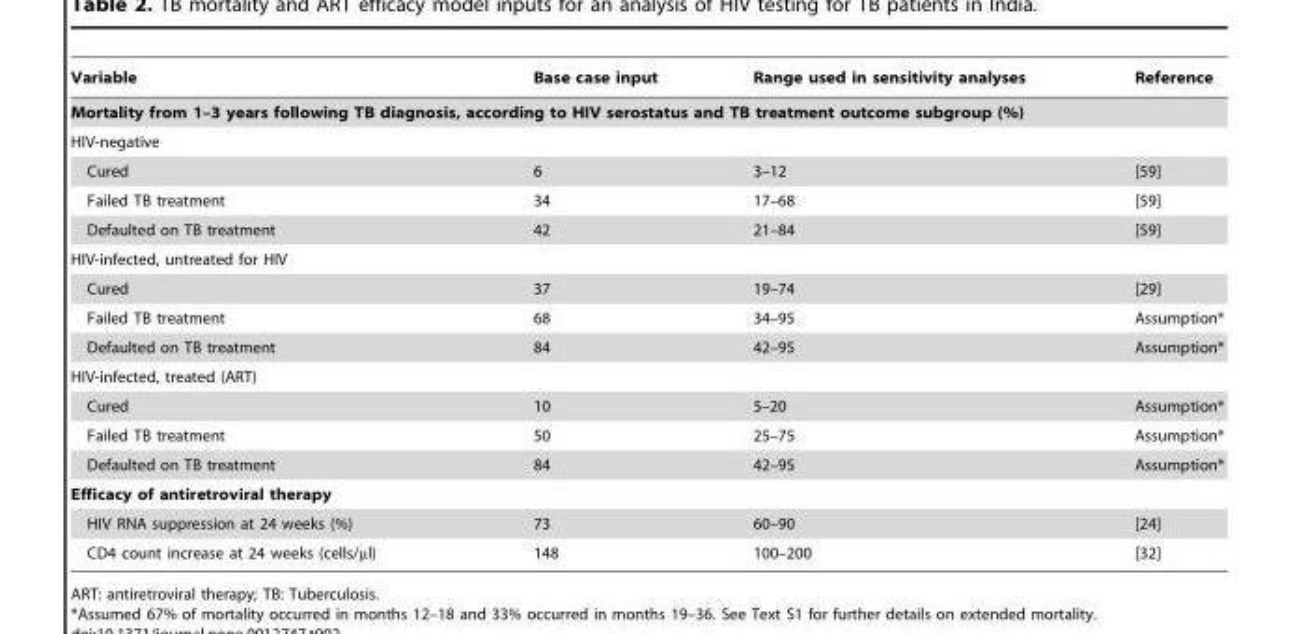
<table><thead><tr><td>Variable</td><td>Base case input</td><td>Range used in sensitivity analyses</td><td>Reference</td></tr></thead><tbody><tr><td colspan="4">Mortality from 1–3 years following TB diagnosis, according to HIV serostatus and TB treatment outcome subgroup (%)</td></tr><tr><td colspan="4">HIV-negative</td></tr><tr><td>Cured</td><td>6</td><td>3–12</td><td>[59]</td></tr><tr><td>Failed TB treatment</td><td>34</td><td>17–68</td><td>[59]</td></tr><tr><td>Defaulted on TB treatment</td><td>42</td><td>21–84</td><td>[59]</td></tr><tr><td colspan="4">HIV-infected, untreated for HIV</td></tr><tr><td>Cured</td><td>37</td><td>19–74</td><td>[29]</td></tr><tr><td>Failed TB treatment</td><td>68</td><td>34–95</td><td>Assumption*</td></tr><tr><td>Defaulted on TB treatment</td><td>84</td><td>42–95</td><td>Assumption*</td></tr><tr><td colspan="4">HIV-infected, treated (ART)</td></tr><tr><td>Cured</td><td>10</td><td>5–20</td><td>Assumption*</td></tr><tr><td>Failed TB treatment</td><td>50</td><td>25–75</td><td>Assumption*</td></tr><tr><td>Defaulted on TB treatment</td><td>84</td><td>42–95</td><td>Assumption*</td></tr><tr><td colspan="4">Efficacy of antiretroviral therapy</td></tr><tr><td>HIV RNA suppression at 24 weeks (%)</td><td>73</td><td>60–90</td><td>[24]</td></tr><tr><td>CD4 count increase at 24 weeks (cells/µl)</td><td>148</td><td>100–200</td><td>[32]</td></tr></tbody></table>